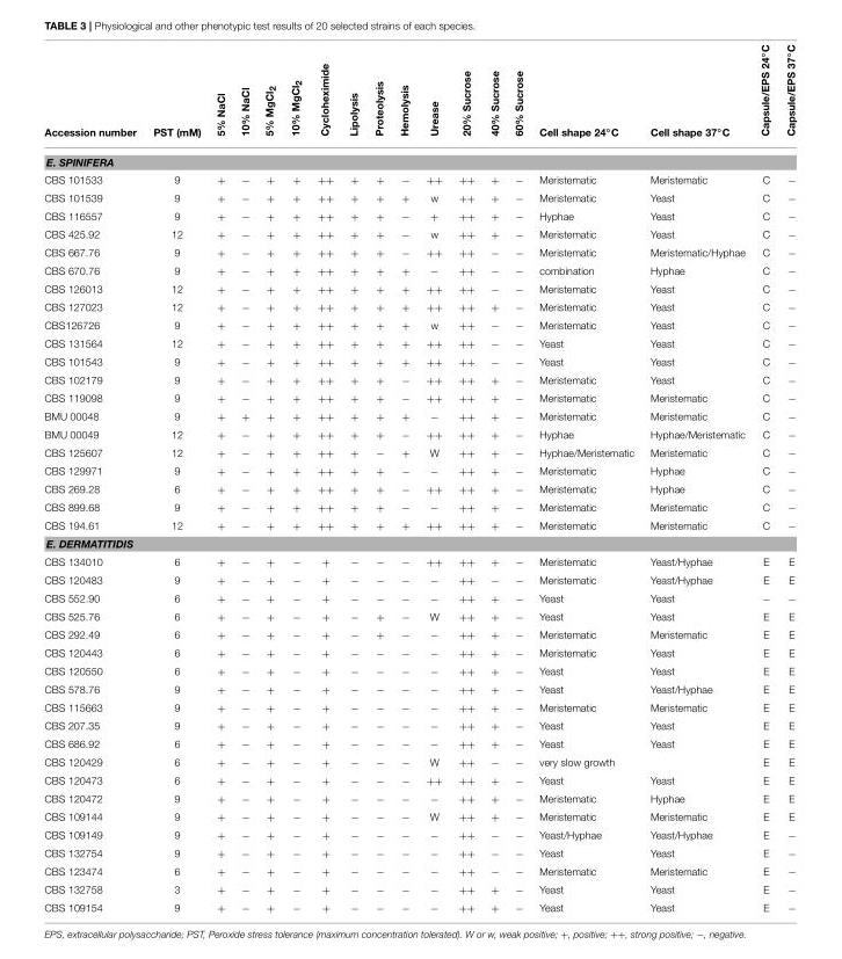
<table><thead><tr><td>Accession number</td><td>PST (mM)</td><td>5% NaCl</td><td>10% NaCl</td><td>5% MgCl<sub>2</sub></td><td>10% MgCl<sub>2</sub></td><td>Cycloheximide</td><td>Lipolysis</td><td>Proteolysis</td><td>Hemolysis</td><td>Urease</td><td>20% Sucrose</td><td>40% Sucrose</td><td>60% Sucrose</td><td>Cell shape 24◦C</td><td>Cell shape 37◦C</td><td>Capsule/EPS 24◦C</td><td>Capsule/EPS 37◦C</td></tr></thead><tbody><tr><td colspan="18">E. SPINIFERA</td></tr><tr><td>CBS 101533</td><td>9</td><td>+</td><td>−</td><td>+</td><td>+</td><td>++</td><td>+</td><td>+</td><td>−</td><td>++</td><td>++</td><td>+</td><td>−</td><td>Meristematic</td><td>Meristematic</td><td>C</td><td>−</td></tr><tr><td>CBS 101539</td><td>9</td><td>+</td><td>−</td><td>+</td><td>+</td><td>++</td><td>+</td><td>+</td><td>+</td><td>w</td><td>++</td><td>+</td><td>−</td><td>Meristematic</td><td>Yeast</td><td>C</td><td>−</td></tr><tr><td>CBS 116557</td><td>9</td><td>+</td><td>−</td><td>+</td><td>+</td><td>++</td><td>+</td><td>+</td><td>−</td><td>+</td><td>++</td><td>+</td><td>−</td><td>Hyphae</td><td>Yeast</td><td>C</td><td>−</td></tr><tr><td>CBS 425.92</td><td>12</td><td>+</td><td>−</td><td>+</td><td>+</td><td>++</td><td>+</td><td>+</td><td>−</td><td>w</td><td>++</td><td>+</td><td>−</td><td>Meristematic</td><td>Yeast</td><td>C</td><td>−</td></tr><tr><td>CBS 667.76</td><td>9</td><td>+</td><td>−</td><td>+</td><td>+</td><td>++</td><td>+</td><td>+</td><td>−</td><td>++</td><td>++</td><td>−</td><td>−</td><td>Meristematic</td><td>Meristematic/Hyphae</td><td>C</td><td>−</td></tr><tr><td>CBS 670.76</td><td>9</td><td>+</td><td>−</td><td>+</td><td>+</td><td>++</td><td>+</td><td>+</td><td>+</td><td>−</td><td>++</td><td>−</td><td>−</td><td>combination</td><td>Hyphae</td><td>C</td><td>−</td></tr><tr><td>CBS 126013</td><td>12</td><td>+</td><td>−</td><td>+</td><td>+</td><td>++</td><td>+</td><td>+</td><td>+</td><td>++</td><td>++</td><td>−</td><td>−</td><td>Meristematic</td><td>Yeast</td><td>C</td><td>−</td></tr><tr><td>CBS 127023</td><td>12</td><td>+</td><td>−</td><td>+</td><td>+</td><td>++</td><td>+</td><td>+</td><td>+</td><td>++</td><td>++</td><td>+</td><td>−</td><td>Meristematic</td><td>Yeast</td><td>C</td><td>−</td></tr><tr><td>CBS126726</td><td>9</td><td>+</td><td>−</td><td>+</td><td>+</td><td>++</td><td>+</td><td>+</td><td>+</td><td>w</td><td>++</td><td>−</td><td>−</td><td>Meristematic</td><td>Yeast</td><td>C</td><td>−</td></tr><tr><td>CBS 131564</td><td>12</td><td>+</td><td>−</td><td>+</td><td>+</td><td>++</td><td>+</td><td>+</td><td>+</td><td>++</td><td>++</td><td>−</td><td>−</td><td>Yeast</td><td>Yeast</td><td>C</td><td>−</td></tr><tr><td>CBS 101543</td><td>9</td><td>+</td><td>−</td><td>+</td><td>+</td><td>++</td><td>+</td><td>+</td><td>+</td><td>++</td><td>++</td><td>−</td><td>−</td><td>Yeast</td><td>Yeast</td><td>C</td><td>−</td></tr><tr><td>CBS 102179</td><td>9</td><td>+</td><td>−</td><td>+</td><td>+</td><td>++</td><td>+</td><td>+</td><td>−</td><td>++</td><td>++</td><td>+</td><td>−</td><td>Meristematic</td><td>Yeast</td><td>C</td><td>−</td></tr><tr><td>CBS 119098</td><td>9</td><td>+</td><td>−</td><td>+</td><td>+</td><td>++</td><td>+</td><td>+</td><td>−</td><td>++</td><td>++</td><td>+</td><td>−</td><td>Meristematic</td><td>Meristematic</td><td>C</td><td>−</td></tr><tr><td>BMU 00048</td><td>9</td><td>+</td><td>+</td><td>+</td><td>+</td><td>++</td><td>+</td><td>+</td><td>+</td><td>−</td><td>++</td><td>+</td><td>−</td><td>Meristematic</td><td>Meristematic</td><td>C</td><td>−</td></tr><tr><td>BMU 00049</td><td>12</td><td>+</td><td>−</td><td>+</td><td>+</td><td>++</td><td>+</td><td>+</td><td>−</td><td>++</td><td>++</td><td>+</td><td>−</td><td>Hyphae</td><td>Hyphae/Meristematic</td><td>C</td><td>−</td></tr><tr><td>CBS 125607</td><td>12</td><td>+</td><td>−</td><td>+</td><td>+</td><td>++</td><td>+</td><td>−</td><td>+</td><td>W</td><td>++</td><td>+</td><td>−</td><td>Hyphae/Meristematic</td><td>Meristematic</td><td>C</td><td>−</td></tr><tr><td>CBS 129971</td><td>9</td><td>+</td><td>−</td><td>+</td><td>+</td><td>++</td><td>+</td><td>+</td><td>−</td><td>−</td><td>++</td><td>+</td><td>−</td><td>Meristematic</td><td>Hyphae</td><td>C</td><td>−</td></tr><tr><td>CBS 269.28</td><td>6</td><td>+</td><td>−</td><td>+</td><td>+</td><td>++</td><td>+</td><td>+</td><td>−</td><td>++</td><td>++</td><td>+</td><td>−</td><td>Meristematic</td><td>Hyphae</td><td>C</td><td>−</td></tr><tr><td>CBS 899.68</td><td>9</td><td>+</td><td>−</td><td>+</td><td>+</td><td>++</td><td>+</td><td>+</td><td>−</td><td>−</td><td>++</td><td>+</td><td>−</td><td>Meristematic</td><td>Meristematic</td><td>C</td><td>−</td></tr><tr><td>CBS 194.61</td><td>12</td><td>+</td><td>−</td><td>+</td><td>+</td><td>++</td><td>+</td><td>+</td><td>+</td><td>++</td><td>++</td><td>+</td><td>−</td><td>Meristematic</td><td>Meristematic</td><td>C</td><td>−</td></tr><tr><td colspan="18">E. DERMATITIDIS</td></tr><tr><td>CBS 134010</td><td>6</td><td>+</td><td>−</td><td>+</td><td>−</td><td>+</td><td>−</td><td>−</td><td>−</td><td>++</td><td>++</td><td>+</td><td>−</td><td>Meristematic</td><td>Yeast/Hyphae</td><td>E</td><td>E</td></tr><tr><td>CBS 120483</td><td>9</td><td>+</td><td>−</td><td>+</td><td>−</td><td>+</td><td>−</td><td>−</td><td>−</td><td>−</td><td>++</td><td>−</td><td>−</td><td>Meristematic</td><td>Yeast/Hyphae</td><td>E</td><td>E</td></tr><tr><td>CBS 552.90</td><td>6</td><td>+</td><td>−</td><td>+</td><td>−</td><td>+</td><td>−</td><td>−</td><td>−</td><td>−</td><td>++</td><td>+</td><td>−</td><td>Yeast</td><td>Yeast</td><td>−</td><td>−</td></tr><tr><td>CBS 525.76</td><td>6</td><td>+</td><td>−</td><td>+</td><td>−</td><td>+</td><td>−</td><td>+</td><td>−</td><td>W</td><td>++</td><td>+</td><td>−</td><td>Yeast</td><td>Yeast</td><td>E</td><td>E</td></tr><tr><td>CBS 292.49</td><td>6</td><td>+</td><td>−</td><td>+</td><td>−</td><td>+</td><td>−</td><td>+</td><td>−</td><td>−</td><td>++</td><td>+</td><td>−</td><td>Meristematic</td><td>Meristematic</td><td>E</td><td>E</td></tr><tr><td>CBS 120443</td><td>6</td><td>+</td><td>−</td><td>+</td><td>−</td><td>+</td><td>−</td><td>−</td><td>−</td><td>−</td><td>++</td><td>+</td><td>−</td><td>Meristematic</td><td>Yeast</td><td>E</td><td>E</td></tr><tr><td>CBS 120550</td><td>6</td><td>+</td><td>−</td><td>+</td><td>−</td><td>+</td><td>−</td><td>−</td><td>−</td><td>−</td><td>++</td><td>+</td><td>−</td><td>Yeast</td><td>Yeast</td><td>E</td><td>E</td></tr><tr><td>CBS 578.76</td><td>9</td><td>+</td><td>−</td><td>+</td><td>−</td><td>+</td><td>−</td><td>−</td><td>−</td><td>−</td><td>++</td><td>+</td><td>−</td><td>Yeast</td><td>Yeast/Hyphae</td><td>E</td><td>E</td></tr><tr><td>CBS 115663</td><td>9</td><td>+</td><td>−</td><td>+</td><td>−</td><td>+</td><td>−</td><td>−</td><td>−</td><td>−</td><td>++</td><td>+</td><td>−</td><td>Meristematic</td><td>Meristematic</td><td>E</td><td>E</td></tr><tr><td>CBS 207.35</td><td>9</td><td>+</td><td>−</td><td>+</td><td>−</td><td>+</td><td>−</td><td>−</td><td>−</td><td>−</td><td>++</td><td>+</td><td>−</td><td>Yeast</td><td>Yeast</td><td>E</td><td>E</td></tr><tr><td>CBS 686.92</td><td>6</td><td>+</td><td>−</td><td>+</td><td>−</td><td>+</td><td>−</td><td>−</td><td>−</td><td>−</td><td>++</td><td>+</td><td>−</td><td>Yeast</td><td>Yeast</td><td>E</td><td>E</td></tr><tr><td>CBS 120429</td><td>6</td><td>+</td><td>−</td><td>+</td><td>−</td><td>+</td><td>−</td><td>−</td><td>−</td><td>W</td><td>++</td><td>−</td><td>−</td><td>very slow growth</td><td></td><td>E</td><td>E</td></tr><tr><td>CBS 120473</td><td>6</td><td>+</td><td>−</td><td>+</td><td>−</td><td>+</td><td>−</td><td>−</td><td>−</td><td>++</td><td>++</td><td>+</td><td>−</td><td>Yeast</td><td>Yeast</td><td>E</td><td>E</td></tr><tr><td>CBS 120472</td><td>9</td><td>+</td><td>−</td><td>+</td><td>−</td><td>+</td><td>−</td><td>−</td><td>−</td><td>−</td><td>++</td><td>+</td><td>−</td><td>Meristematic</td><td>Hyphae</td><td>E</td><td>E</td></tr><tr><td>CBS 109144</td><td>9</td><td>+</td><td>−</td><td>+</td><td>−</td><td>+</td><td>−</td><td>−</td><td>−</td><td>W</td><td>++</td><td>+</td><td>−</td><td>Meristematic</td><td>Meristematic</td><td>E</td><td>E</td></tr><tr><td>CBS 109149</td><td>9</td><td>+</td><td>−</td><td>+</td><td>−</td><td>+</td><td>−</td><td>−</td><td>−</td><td>−</td><td>++</td><td>−</td><td>−</td><td>Yeast/Hyphae</td><td>Yeast/Hyphae</td><td>E</td><td>−</td></tr><tr><td>CBS 132754</td><td>9</td><td>+</td><td>−</td><td>+</td><td>−</td><td>+</td><td>−</td><td>−</td><td>−</td><td>−</td><td>++</td><td>−</td><td>−</td><td>Yeast</td><td>Yeast</td><td>E</td><td>−</td></tr><tr><td>CBS 123474</td><td>6</td><td>+</td><td>−</td><td>+</td><td>−</td><td>+</td><td>−</td><td>−</td><td>−</td><td>−</td><td>++</td><td>−</td><td>−</td><td>Meristematic</td><td>Meristematic</td><td>E</td><td>−</td></tr><tr><td>CBS 132758</td><td>3</td><td>+</td><td>−</td><td>+</td><td>−</td><td>+</td><td>−</td><td>−</td><td>−</td><td>−</td><td>++</td><td>+</td><td>−</td><td>Yeast</td><td>Yeast</td><td>E</td><td>−</td></tr><tr><td>CBS 109154</td><td>9</td><td>+</td><td>−</td><td>+</td><td>−</td><td>+</td><td>−</td><td>−</td><td>−</td><td>−</td><td>++</td><td>+</td><td>−</td><td>Yeast</td><td>Yeast</td><td>E</td><td>−</td></tr></tbody></table>